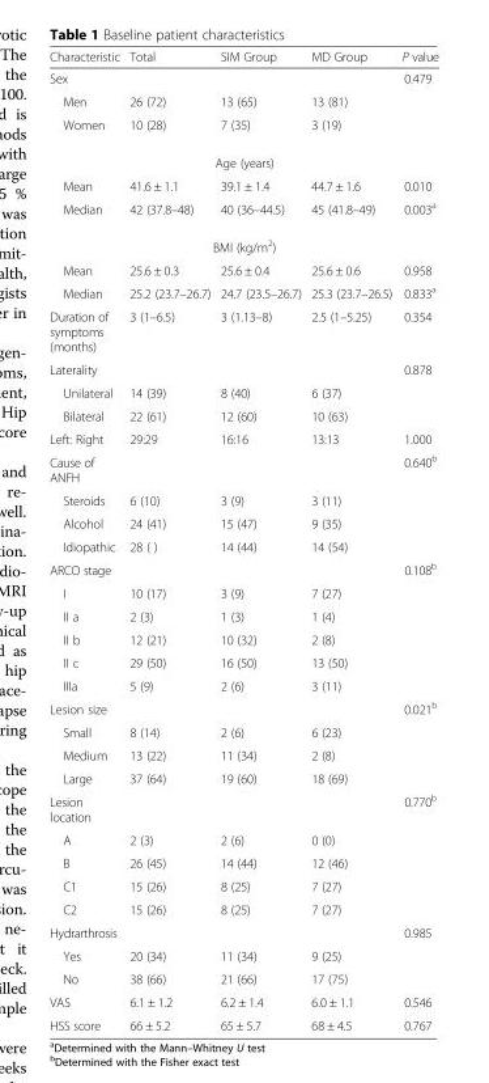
<table><thead><tr><td>Characteristic</td><td>Total</td><td>SIM Group</td><td>MD Group</td><td>P value</td></tr></thead><tbody><tr><td colspan="4">Sex</td><td rowspan="3">0.479</td></tr><tr><td>Men</td><td>26 (72)</td><td>13 (65)</td><td>13 (81)</td></tr><tr><td>Women</td><td>10 (28)</td><td>7 (35)</td><td>3 (19)</td></tr><tr><td colspan="5">Age (years)</td></tr><tr><td>Mean</td><td>41.6 ± 1.1</td><td>39.1 ± 1.4</td><td>44.7 ± 1.6</td><td>0.010</td></tr><tr><td>Median</td><td>42 (37.8–48)</td><td>40 (36–44.5)</td><td>45 (41.8–49)</td><td>0.003<sup>a</sup></td></tr><tr><td colspan="5">BMI (kg/m<sup>2</sup>)</td></tr><tr><td>Mean</td><td>25.6 ± 0.3</td><td>25.6 ± 0.4</td><td>25.6 ± 0.6</td><td>0.958</td></tr><tr><td>Median</td><td>25.2 (23.7–26.7)</td><td>24.7 (23.5–26.7)</td><td>25.3 (23.7–26.5)</td><td>0.833<sup>a</sup></td></tr><tr><td>Duration of symptoms (months)</td><td>3 (1–6.5)</td><td>3 (1.13–8)</td><td>2.5 (1–5.25)</td><td>0.354</td></tr><tr><td colspan="4">Laterality</td><td rowspan="3">0.878</td></tr><tr><td>Unilateral</td><td>14 (39)</td><td>8 (40)</td><td>6 (37)</td></tr><tr><td>Bilateral</td><td>22 (61)</td><td>12 (60)</td><td>10 (63)</td></tr><tr><td>Left: Right</td><td>29:29</td><td>16:16</td><td>13:13</td><td>1.000</td></tr><tr><td colspan="4">Cause of ANFH</td><td rowspan="4">0.640<sup>b</sup></td></tr><tr><td>Steroids</td><td>6 (10)</td><td>3 (9)</td><td>3 (11)</td></tr><tr><td>Alcohol</td><td>24 (41)</td><td>15 (47)</td><td>9 (35)</td></tr><tr><td>Idiopathic</td><td>28 ( )</td><td>14 (44)</td><td>14 (54)</td></tr><tr><td colspan="4">ARCO stage</td><td rowspan="6">0.108<sup>b</sup></td></tr><tr><td>I</td><td>10 (17)</td><td>3 (9)</td><td>7 (27)</td></tr><tr><td>II a</td><td>2 (3)</td><td>1 (3)</td><td>1 (4)</td></tr><tr><td>II b</td><td>12 (21)</td><td>10 (32)</td><td>2 (8)</td></tr><tr><td>II c</td><td>29 (50)</td><td>16 (50)</td><td>13 (50)</td></tr><tr><td>IIIa</td><td>5 (9)</td><td>2 (6)</td><td>3 (11)</td></tr><tr><td colspan="4">Lesion size</td><td rowspan="4">0.021<sup>b</sup></td></tr><tr><td>Small</td><td>8 (14)</td><td>2 (6)</td><td>6 (23)</td></tr><tr><td>Medium</td><td>13 (22)</td><td>11 (34)</td><td>2 (8)</td></tr><tr><td>Large</td><td>37 (64)</td><td>19 (60)</td><td>18 (69)</td></tr><tr><td colspan="4">Lesion location</td><td rowspan="5">0.770<sup>b</sup></td></tr><tr><td>A</td><td>2 (3)</td><td>2 (6)</td><td>0 (0)</td></tr><tr><td>B</td><td>26 (45)</td><td>14 (44)</td><td>12 (46)</td></tr><tr><td>C1</td><td>15 (26)</td><td>8 (25)</td><td>7 (27)</td></tr><tr><td>C2</td><td>15 (26)</td><td>8 (25)</td><td>7 (27)</td></tr><tr><td colspan="4">Hydrarthrosis</td><td rowspan="3">0.985</td></tr><tr><td>Yes</td><td>20 (34)</td><td>11 (34)</td><td>9 (25)</td></tr><tr><td>No</td><td>38 (66)</td><td>21 (66)</td><td>17 (75)</td></tr><tr><td>VAS</td><td>6.1 ± 1.2</td><td>6.2 ± 1.4</td><td>6.0 ± 1.1</td><td>0.546</td></tr><tr><td>HSS score</td><td>66 ± 5.2</td><td>65 ± 5.7</td><td>68 ± 4.5</td><td>0.767</td></tr></tbody></table>